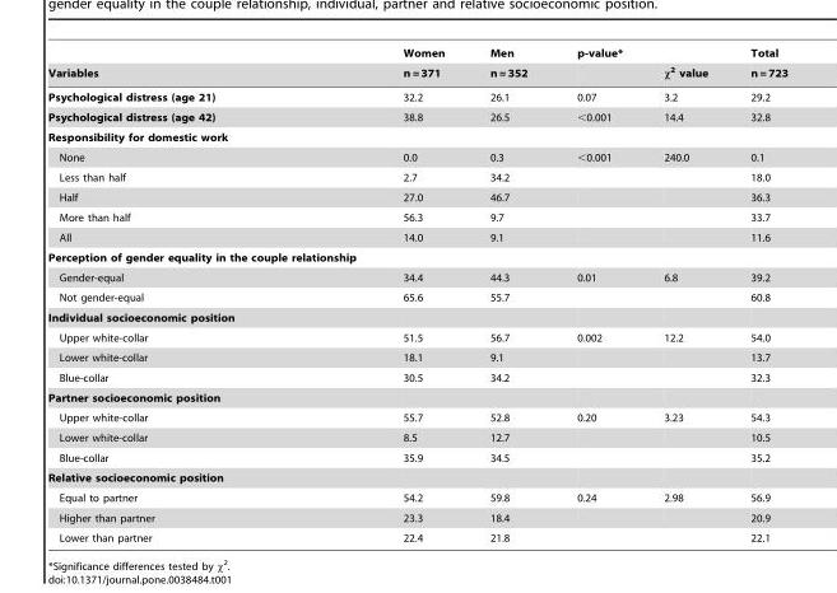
<table><thead><tr><td rowspan="2">Variables</td><td rowspan="2">Women n = 371</td><td rowspan="2">Men n = 352</td><td rowspan="2">p-value*</td><td rowspan="2">χ<sup>2</sup> value</td><td rowspan="2">Total n = 723</td></tr><tr></tr></thead><tbody><tr><td>Psychological distress (age 21)</td><td>32.2</td><td>26.1</td><td>0.07</td><td>3.2</td><td>29.2</td></tr><tr><td>Psychological distress (age 42)</td><td>38.8</td><td>26.5</td><td>&lt;0.001</td><td>14.4</td><td>32.8</td></tr><tr><td colspan="6">Responsibility for domestic work</td></tr><tr><td>None</td><td>0.0</td><td>0.3</td><td>&lt;0.001</td><td>240.0</td><td>0.1</td></tr><tr><td>Less than half</td><td>2.7</td><td>34.2</td><td></td><td></td><td>18.0</td></tr><tr><td>Half</td><td>27.0</td><td>46.7</td><td></td><td></td><td>36.3</td></tr><tr><td>More than half</td><td>56.3</td><td>9.7</td><td></td><td></td><td>33.7</td></tr><tr><td>All</td><td>14.0</td><td>9.1</td><td></td><td></td><td>11.6</td></tr><tr><td colspan="6">Perception of gender equality in the couple relationship</td></tr><tr><td>Gender-equal</td><td>34.4</td><td>44.3</td><td>0.01</td><td>6.8</td><td>39.2</td></tr><tr><td>Not gender-equal</td><td>65.6</td><td>55.7</td><td></td><td></td><td>60.8</td></tr><tr><td colspan="6">Individual socioeconomic position</td></tr><tr><td>Upper white-collar</td><td>51.5</td><td>56.7</td><td>0.002</td><td>12.2</td><td>54.0</td></tr><tr><td>Lower white-collar</td><td>18.1</td><td>9.1</td><td></td><td></td><td>13.7</td></tr><tr><td>Blue-collar</td><td>30.5</td><td>34.2</td><td></td><td></td><td>32.3</td></tr><tr><td colspan="6">Partner socioeconomic position</td></tr><tr><td>Upper white-collar</td><td>55.7</td><td>52.8</td><td>0.20</td><td>3.23</td><td>54.3</td></tr><tr><td>Lower white-collar</td><td>8.5</td><td>12.7</td><td></td><td></td><td>10.5</td></tr><tr><td>Blue-collar</td><td>35.9</td><td>34.5</td><td></td><td></td><td>35.2</td></tr><tr><td colspan="6">Relative socioeconomic position</td></tr><tr><td>Equal to partner</td><td>54.2</td><td>59.8</td><td>0.24</td><td>2.98</td><td>56.9</td></tr><tr><td>Higher than partner</td><td>23.3</td><td>18.4</td><td></td><td></td><td>20.9</td></tr><tr><td>Lower than partner</td><td>22.4</td><td>21.8</td><td></td><td></td><td>22.1</td></tr></tbody></table>